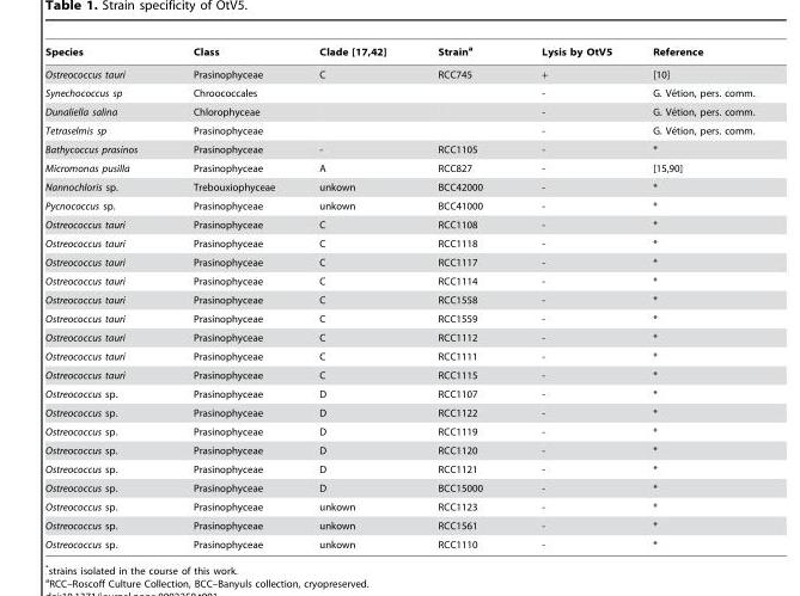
<table><thead><tr><td>Species</td><td>Class</td><td>Clade [17,42]</td><td>Strain<sup>a</sup></td><td>Lysis by OtV5</td><td>Reference</td></tr></thead><tbody><tr><td>Ostreococcus tauri</td><td>Prasinophyceae</td><td>C</td><td>RCC745</td><td>+</td><td>[10]</td></tr><tr><td>Synechococcus sp</td><td>Chroococcales</td><td></td><td></td><td>-</td><td>G. Ve´tion, pers. comm.</td></tr><tr><td>Dunaliella salina</td><td>Chlorophyceae</td><td></td><td></td><td>-</td><td>G. Ve´tion, pers. comm.</td></tr><tr><td>Tetraselmis sp</td><td>Prasinophyceae</td><td></td><td></td><td>-</td><td>G. Ve´tion, pers. comm.</td></tr><tr><td>Bathycoccus prasinos</td><td>Prasinophyceae</td><td>-</td><td>RCC1105</td><td>-</td><td>*</td></tr><tr><td>Micromonas pusilla</td><td>Prasinophyceae</td><td>A</td><td>RCC827</td><td>-</td><td>[15,90]</td></tr><tr><td>Nannochloris sp.</td><td>Trebouxiophyceae</td><td>unkown</td><td>BCC42000</td><td>-</td><td>*</td></tr><tr><td>Pycnococcus sp.</td><td>Prasinophyceae</td><td>unkown</td><td>BCC41000</td><td>-</td><td>*</td></tr><tr><td>Ostreococcus tauri</td><td>Prasinophyceae</td><td>C</td><td>RCC1108</td><td>-</td><td>*</td></tr><tr><td>Ostreococcus tauri</td><td>Prasinophyceae</td><td>C</td><td>RCC1118</td><td>-</td><td>*</td></tr><tr><td>Ostreococcus tauri</td><td>Prasinophyceae</td><td>C</td><td>RCC1117</td><td>-</td><td>*</td></tr><tr><td>Ostreococcus tauri</td><td>Prasinophyceae</td><td>C</td><td>RCC1114</td><td>-</td><td>*</td></tr><tr><td>Ostreococcus tauri</td><td>Prasinophyceae</td><td>C</td><td>RCC1558</td><td>-</td><td>*</td></tr><tr><td>Ostreococcus tauri</td><td>Prasinophyceae</td><td>C</td><td>RCC1559</td><td>-</td><td>*</td></tr><tr><td>Ostreococcus tauri</td><td>Prasinophyceae</td><td>C</td><td>RCC1112</td><td>-</td><td>*</td></tr><tr><td>Ostreococcus tauri</td><td>Prasinophyceae</td><td>C</td><td>RCC1111</td><td>-</td><td>*</td></tr><tr><td>Ostreococcus tauri</td><td>Prasinophyceae</td><td>C</td><td>RCC1115</td><td>-</td><td>*</td></tr><tr><td>Ostreococcus sp.</td><td>Prasinophyceae</td><td>D</td><td>RCC1107</td><td>-</td><td>*</td></tr><tr><td>Ostreococcus sp.</td><td>Prasinophyceae</td><td>D</td><td>RCC1122</td><td>-</td><td>*</td></tr><tr><td>Ostreococcus sp.</td><td>Prasinophyceae</td><td>D</td><td>RCC1119</td><td>-</td><td>*</td></tr><tr><td>Ostreococcus sp.</td><td>Prasinophyceae</td><td>D</td><td>RCC1120</td><td>-</td><td>*</td></tr><tr><td>Ostreococcus sp.</td><td>Prasinophyceae</td><td>D</td><td>RCC1121</td><td>-</td><td>*</td></tr><tr><td>Ostreococcus sp.</td><td>Prasinophyceae</td><td>D</td><td>BCC15000</td><td>-</td><td>*</td></tr><tr><td>Ostreococcus sp.</td><td>Prasinophyceae</td><td>unkown</td><td>RCC1123</td><td>-</td><td>*</td></tr><tr><td>Ostreococcus sp.</td><td>Prasinophyceae</td><td>unkown</td><td>RCC1561</td><td>-</td><td>*</td></tr><tr><td>Ostreococcus sp.</td><td>Prasinophyceae</td><td>unkown</td><td>RCC1110</td><td>-</td><td>*</td></tr></tbody></table>